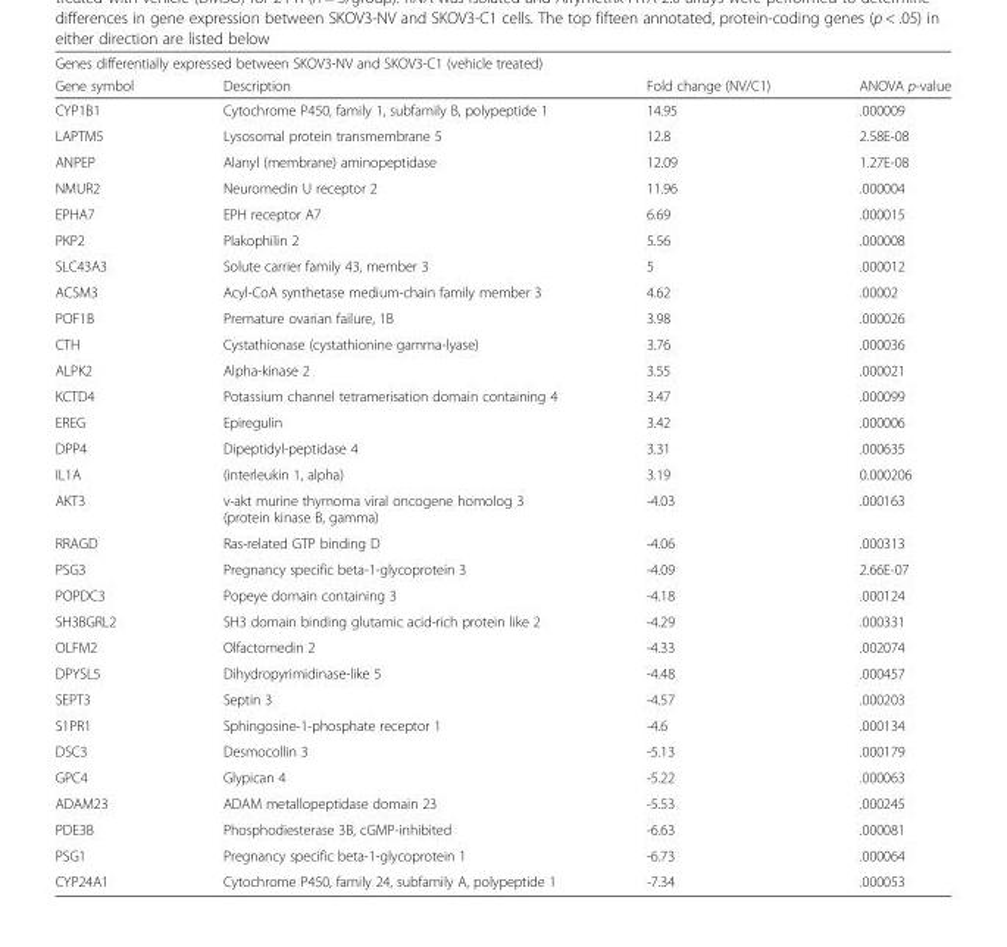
<table><thead><tr><td colspan="4">Genes differentially expressed between SKOV3-NV and SKOV3-C1 (vehicle treated)</td></tr><tr><td>Gene symbol</td><td>Description</td><td>Fold change (NV/C1)</td><td>ANOVA p-value</td></tr></thead><tbody><tr><td>CYP1B1</td><td>Cytochrome P450, family 1, subfamily B, polypeptide 1</td><td>14.95</td><td>.000009</td></tr><tr><td>LAPTM5</td><td>Lysosomal protein transmembrane 5</td><td>12.8</td><td>2.58E-08</td></tr><tr><td>ANPEP</td><td>Alanyl (membrane) aminopeptidase</td><td>12.09</td><td>1.27E-08</td></tr><tr><td>NMUR2</td><td>Neuromedin U receptor 2</td><td>11.96</td><td>.000004</td></tr><tr><td>EPHA7</td><td>EPH receptor A7</td><td>6.69</td><td>.000015</td></tr><tr><td>PKP2</td><td>Plakophilin 2</td><td>5.56</td><td>.000008</td></tr><tr><td>SLC43A3</td><td>Solute carrier family 43, member 3</td><td>5</td><td>.000012</td></tr><tr><td>ACSM3</td><td>Acyl-CoA synthetase medium-chain family member 3</td><td>4.62</td><td>.00002</td></tr><tr><td>POF1B</td><td>Premature ovarian failure, 1B</td><td>3.98</td><td>.000026</td></tr><tr><td>CTH</td><td>Cystathionase (cystathionine gamma-lyase)</td><td>3.76</td><td>.000036</td></tr><tr><td>ALPK2</td><td>Alpha-kinase 2</td><td>3.55</td><td>.000021</td></tr><tr><td>KCTD4</td><td>Potassium channel tetramerisation domain containing 4</td><td>3.47</td><td>.000099</td></tr><tr><td>EREG</td><td>Epiregulin</td><td>3.42</td><td>.000006</td></tr><tr><td>DPP4</td><td>Dipeptidyl-peptidase 4</td><td>3.31</td><td>.000635</td></tr><tr><td>IL1A</td><td>(interleukin 1, alpha)</td><td>3.19</td><td>0.000206</td></tr><tr><td>AKT3</td><td>v-akt murine thymoma viral oncogene homolog 3 (protein kinase B, gamma)</td><td>-4.03</td><td>.000163</td></tr><tr><td>RRAGD</td><td>Ras-related GTP binding D</td><td>-4.06</td><td>.000313</td></tr><tr><td>PSG3</td><td>Pregnancy specific beta-1-glycoprotein 3</td><td>-4.09</td><td>2.66E-07</td></tr><tr><td>POPDC3</td><td>Popeye domain containing 3</td><td>-4.18</td><td>.000124</td></tr><tr><td>SH3BGRL2</td><td>SH3 domain binding glutamic acid-rich protein like 2</td><td>-4.29</td><td>.000331</td></tr><tr><td>OLFM2</td><td>Olfactomedin 2</td><td>-4.33</td><td>.002074</td></tr><tr><td>DPYSL5</td><td>Dihydropyrimidinase-like 5</td><td>-4.48</td><td>.000457</td></tr><tr><td>SEPT3</td><td>Septin 3</td><td>-4.57</td><td>.000203</td></tr><tr><td>S1PR1</td><td>Sphingosine-1-phosphate receptor 1</td><td>-4.6</td><td>.000134</td></tr><tr><td>DSC3</td><td>Desmocollin 3</td><td>-5.13</td><td>.000179</td></tr><tr><td>GPC4</td><td>Glypican 4</td><td>-5.22</td><td>.000063</td></tr><tr><td>ADAM23</td><td>ADAM metallopeptidase domain 23</td><td>-5.53</td><td>.000245</td></tr><tr><td>PDE3B</td><td>Phosphodiesterase 3B, cGMP-inhibited</td><td>-6.63</td><td>.000081</td></tr><tr><td>PSG1</td><td>Pregnancy specific beta-1-glycoprotein 1</td><td>-6.73</td><td>.000064</td></tr><tr><td>CYP24A1</td><td>Cytochrome P450, family 24, subfamily A, polypeptide 1</td><td>-7.34</td><td>.000053</td></tr></tbody></table>